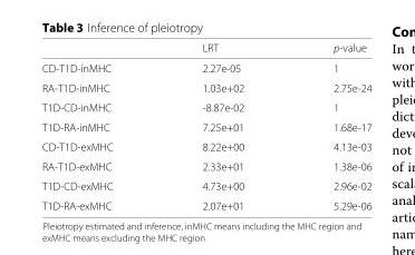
<table><thead><tr><td></td><td>LRT</td><td>p-value</td></tr></thead><tbody><tr><td>CD-T1D-inMHC</td><td>2.27e-05</td><td>1</td></tr><tr><td>RA-T1D-inMHC</td><td>1.03e+02</td><td>2.75e-24</td></tr><tr><td>T1D-CD-inMHC</td><td>-8.87e-02</td><td>1</td></tr><tr><td>T1D-RA-inMHC</td><td>7.25e+01</td><td>1.68e-17</td></tr><tr><td>CD-T1D-exMHC</td><td>8.22e+00</td><td>4.13e-03</td></tr><tr><td>RA-T1D-exMHC</td><td>2.33e+01</td><td>1.38e-06</td></tr><tr><td>T1D-CD-exMHC</td><td>4.73e+00</td><td>2.96e-02</td></tr><tr><td>T1D-RA-exMHC</td><td>2.07e+01</td><td>5.29e-06</td></tr></tbody></table>